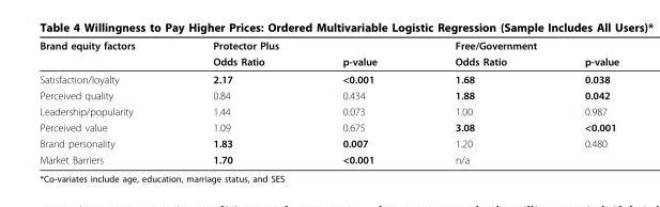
<table><thead><tr><td rowspan="2">Brand equity factors</td><td colspan="2">Protector Plus</td><td colspan="2">Free/Government</td></tr><tr><td>Odds Ratio</td><td>p-value</td><td>Odds Ratio</td><td>p-value</td></tr></thead><tbody><tr><td>Satisfaction/loyalty</td><td>2.17</td><td>&lt;0.001</td><td>1.68</td><td>0.038</td></tr><tr><td>Perceived quality</td><td>0.84</td><td>0.434</td><td>1.88</td><td>0.042</td></tr><tr><td>Leadership/popularity</td><td>1.44</td><td>0.073</td><td>1.00</td><td>0.987</td></tr><tr><td>Perceived value</td><td>1.09</td><td>0.675</td><td>3.08</td><td>&lt;0.001</td></tr><tr><td>Brand personality</td><td>1.83</td><td>0.007</td><td>1.20</td><td>0.480</td></tr><tr><td>Market Barriers</td><td>1.70</td><td>&lt;0.001</td><td colspan="2">n/a</td></tr></tbody></table>